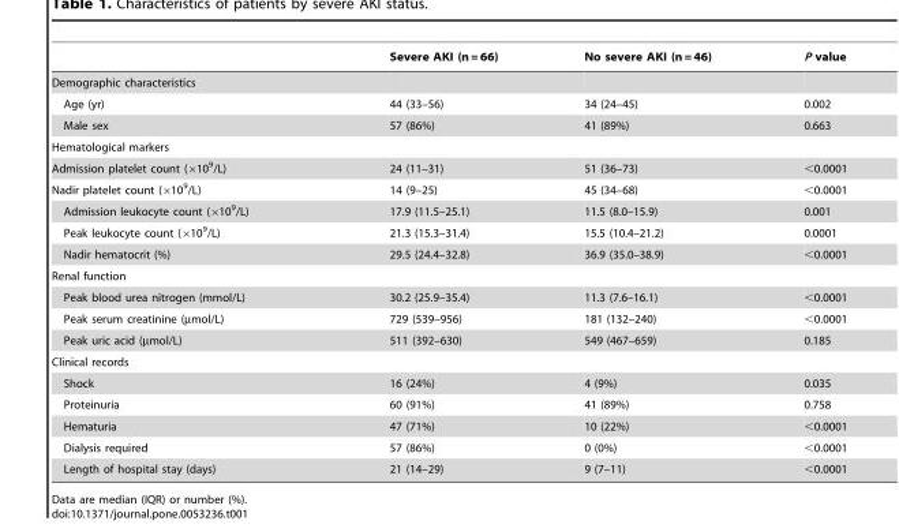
<table><thead><tr><td></td><td>Severe AKI (n = 66)</td><td>No severe AKI (n = 46)</td><td>P value</td></tr></thead><tbody><tr><td colspan="4">Demographic characteristics</td></tr><tr><td>Age (yr)</td><td>44 (33–56)</td><td>34 (24–45)</td><td>0.002</td></tr><tr><td>Male sex</td><td>57 (86%)</td><td>41 (89%)</td><td>0.663</td></tr><tr><td colspan="4">Hematological markers</td></tr><tr><td>Admission platelet count (×10<sup>9</sup>/L)</td><td>24 (11–31)</td><td>51 (36–73)</td><td>&lt;0.0001</td></tr><tr><td>Nadir platelet count (×10<sup>9</sup>/L)</td><td>14 (9–25)</td><td>45 (34–68)</td><td>&lt;0.0001</td></tr><tr><td>Admission leukocyte count (×10<sup>9</sup>/L)</td><td>17.9 (11.5–25.1)</td><td>11.5 (8.0–15.9)</td><td>0.001</td></tr><tr><td>Peak leukocyte count (×10<sup>9</sup>/L)</td><td>21.3 (15.3–31.4)</td><td>15.5 (10.4–21.2)</td><td>0.0001</td></tr><tr><td>Nadir hematocrit (%)</td><td>29.5 (24.4–32.8)</td><td>36.9 (35.0–38.9)</td><td>&lt;0.0001</td></tr><tr><td colspan="4">Renal function</td></tr><tr><td>Peak blood urea nitrogen (mmol/L)</td><td>30.2 (25.9–35.4)</td><td>11.3 (7.6–16.1)</td><td>&lt;0.0001</td></tr><tr><td>Peak serum creatinine (µmol/L)</td><td>729 (539–956)</td><td>181 (132–240)</td><td>&lt;0.0001</td></tr><tr><td>Peak uric acid (µmol/L)</td><td>511 (392–630)</td><td>549 (467–659)</td><td>0.185</td></tr><tr><td colspan="4">Clinical records</td></tr><tr><td>Shock</td><td>16 (24%)</td><td>4 (9%)</td><td>0.035</td></tr><tr><td>Proteinuria</td><td>60 (91%)</td><td>41 (89%)</td><td>0.758</td></tr><tr><td>Hematuria</td><td>47 (71%)</td><td>10 (22%)</td><td>&lt;0.0001</td></tr><tr><td>Dialysis required</td><td>57 (86%)</td><td>0 (0%)</td><td>&lt;0.0001</td></tr><tr><td>Length of hospital stay (days)</td><td>21 (14–29)</td><td>9 (7–11)</td><td>&lt;0.0001</td></tr></tbody></table>